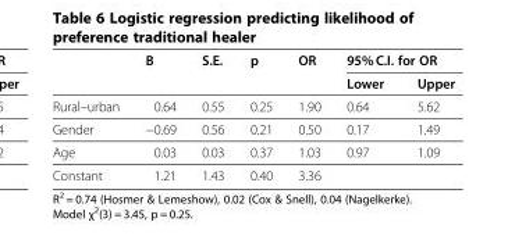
<table><thead><tr><td rowspan="2"></td><td rowspan="2">B</td><td rowspan="2">S.E.</td><td rowspan="2">p</td><td rowspan="2">OR</td><td colspan="2">95% C.I. for OR</td></tr><tr><td>Lower</td><td>Upper</td></tr></thead><tbody><tr><td>Rural–urban</td><td>0.64</td><td>0.55</td><td>0.25</td><td>1.90</td><td>0.64</td><td>5.62</td></tr><tr><td>Gender</td><td>−0.69</td><td>0.56</td><td>0.21</td><td>0.50</td><td>0.17</td><td>1.49</td></tr><tr><td>Age</td><td>0.03</td><td>0.03</td><td>0.37</td><td>1.03</td><td>0.97</td><td>1.09</td></tr><tr><td>Constant</td><td>1.21</td><td>1.43</td><td>0.40</td><td>3.36</td><td></td><td></td></tr></tbody></table>